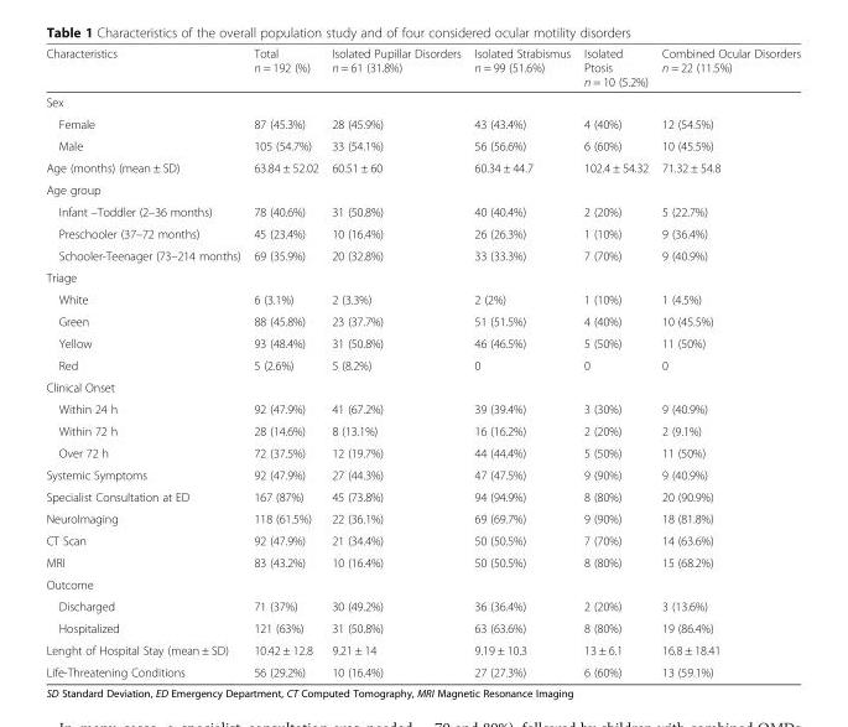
<table><thead><tr><td>Characteristics</td><td>Total n = 192 (%)</td><td>Isolated Pupillar Disorders n = 61 (31.8%)</td><td>Isolated Strabismus n = 99 (51.6%)</td><td>Isolated Ptosis n = 10 (5.2%)</td><td>Combined Ocular Disorders n = 22 (11.5%)</td></tr></thead><tbody><tr><td colspan="6">Sex</td></tr><tr><td>Female</td><td>87 (45.3%)</td><td>28 (45.9%)</td><td>43 (43.4%)</td><td>4 (40%)</td><td>12 (54.5%)</td></tr><tr><td>Male</td><td>105 (54.7%)</td><td>33 (54.1%)</td><td>56 (56.6%)</td><td>6 (60%)</td><td>10 (45.5%)</td></tr><tr><td>Age (months) (mean ± SD)</td><td>63.84 ± 52.02</td><td>60.51 ± 60</td><td>60.34 ± 44.7</td><td>102.4 ± 54.32</td><td>71.32 ± 54.8</td></tr><tr><td colspan="6">Age group</td></tr><tr><td>Infant –Toddler (2–36 months)</td><td>78 (40.6%)</td><td>31 (50.8%)</td><td>40 (40.4%)</td><td>2 (20%)</td><td>5 (22.7%)</td></tr><tr><td>Preschooler (37–72 months)</td><td>45 (23.4%)</td><td>10 (16.4%)</td><td>26 (26.3%)</td><td>1 (10%)</td><td>9 (36.4%)</td></tr><tr><td>Schooler-Teenager (73–214 months)</td><td>69 (35.9%)</td><td>20 (32.8%)</td><td>33 (33.3%)</td><td>7 (70%)</td><td>9 (40.9%)</td></tr><tr><td colspan="6">Triage</td></tr><tr><td>White</td><td>6 (3.1%)</td><td>2 (3.3%)</td><td>2 (2%)</td><td>1 (10%)</td><td>1 (4.5%)</td></tr><tr><td>Green</td><td>88 (45.8%)</td><td>23 (37.7%)</td><td>51 (51.5%)</td><td>4 (40%)</td><td>10 (45.5%)</td></tr><tr><td>Yellow</td><td>93 (48.4%)</td><td>31 (50.8%)</td><td>46 (46.5%)</td><td>5 (50%)</td><td>11 (50%)</td></tr><tr><td>Red</td><td>5 (2.6%)</td><td>5 (8.2%)</td><td>0</td><td>0</td><td>0</td></tr><tr><td colspan="6">Clinical Onset</td></tr><tr><td>Within 24 h</td><td>92 (47.9%)</td><td>41 (67.2%)</td><td>39 (39.4%)</td><td>3 (30%)</td><td>9 (40.9%)</td></tr><tr><td>Within 72 h</td><td>28 (14.6%)</td><td>8 (13.1%)</td><td>16 (16.2%)</td><td>2 (20%)</td><td>2 (9.1%)</td></tr><tr><td>Over 72 h</td><td>72 (37.5%)</td><td>12 (19.7%)</td><td>44 (44.4%)</td><td>5 (50%)</td><td>11 (50%)</td></tr><tr><td>Systemic Symptoms</td><td>92 (47.9%)</td><td>27 (44.3%)</td><td>47 (47.5%)</td><td>9 (90%)</td><td>9 (40.9%)</td></tr><tr><td>Specialist Consultation at ED</td><td>167 (87%)</td><td>45 (73.8%)</td><td>94 (94.9%)</td><td>8 (80%)</td><td>20 (90.9%)</td></tr><tr><td>NeuroImaging</td><td>118 (61.5%)</td><td>22 (36.1%)</td><td>69 (69.7%)</td><td>9 (90%)</td><td>18 (81.8%)</td></tr><tr><td>CT Scan</td><td>92 (47.9%)</td><td>21 (34.4%)</td><td>50 (50.5%)</td><td>7 (70%)</td><td>14 (63.6%)</td></tr><tr><td>MRI</td><td>83 (43.2%)</td><td>10 (16.4%)</td><td>50 (50.5%)</td><td>8 (80%)</td><td>15 (68.2%)</td></tr><tr><td colspan="6">Outcome</td></tr><tr><td>Discharged</td><td>71 (37%)</td><td>30 (49.2%)</td><td>36 (36.4%)</td><td>2 (20%)</td><td>3 (13.6%)</td></tr><tr><td>Hospitalized</td><td>121 (63%)</td><td>31 (50.8%)</td><td>63 (63.6%)</td><td>8 (80%)</td><td>19 (86.4%)</td></tr><tr><td>Lenght of Hospital Stay (mean ± SD)</td><td>10.42 ± 12.8</td><td>9.21 ± 14</td><td>9.19 ± 10.3</td><td>13 ± 6.1</td><td>16.8 ± 18.41</td></tr><tr><td>Life-Threatening Conditions</td><td>56 (29.2%)</td><td>10 (16.4%)</td><td>27 (27.3%)</td><td>6 (60%)</td><td>13 (59.1%)</td></tr></tbody></table>